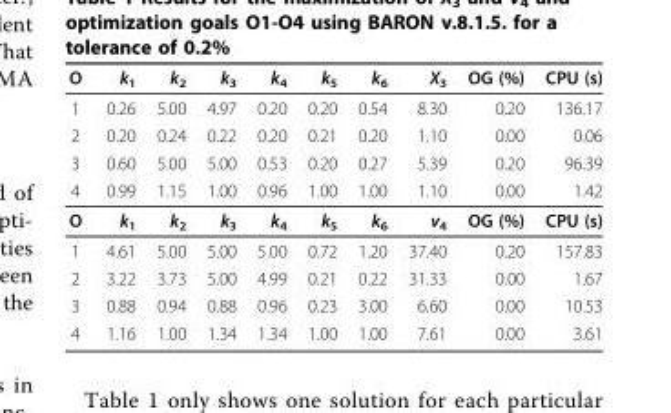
<table><thead><tr><td>O</td><td>k<sub>1</sub></td><td>k<sub>2</sub></td><td>k<sub>3</sub></td><td>k<sub>4</sub></td><td>k<sub>5</sub></td><td>k<sub>6</sub></td><td>X<sub>3</sub></td><td>OG (%)</td><td>CPU (s)</td></tr></thead><tbody><tr><td>1</td><td>0.26</td><td>5.00</td><td>4.97</td><td>0.20</td><td>0.20</td><td>0.54</td><td>8.30</td><td>0.20</td><td>136.17</td></tr><tr><td>2</td><td>0.20</td><td>0.24</td><td>0.22</td><td>0.20</td><td>0.21</td><td>0.20</td><td>1.10</td><td>0.00</td><td>0.06</td></tr><tr><td>3</td><td>0.60</td><td>5.00</td><td>5.00</td><td>0.53</td><td>0.20</td><td>0.27</td><td>5.39</td><td>0.20</td><td>96.39</td></tr><tr><td>4</td><td>0.99</td><td>1.15</td><td>1.00</td><td>0.96</td><td>1.00</td><td>1.00</td><td>1.10</td><td>0.00</td><td>1.42</td></tr><tr><td>O</td><td>k<sub>1</sub></td><td>k<sub>2</sub></td><td>k<sub>3</sub></td><td>k<sub>4</sub></td><td>k<sub>5</sub></td><td>k<sub>6</sub></td><td>v<sub>4</sub></td><td>OG (%)</td><td>CPU (s)</td></tr><tr><td>1</td><td>4.61</td><td>5.00</td><td>5.00</td><td>5.00</td><td>0.72</td><td>1.20</td><td>37.40</td><td>0.20</td><td>157.83</td></tr><tr><td>2</td><td>3.22</td><td>3.73</td><td>5.00</td><td>4.99</td><td>0.21</td><td>0.22</td><td>31.33</td><td>0.00</td><td>1.67</td></tr><tr><td>3</td><td>0.88</td><td>0.94</td><td>0.88</td><td>0.96</td><td>0.23</td><td>3.00</td><td>6.60</td><td>0.00</td><td>10.53</td></tr><tr><td>4</td><td>1.16</td><td>1.00</td><td>1.34</td><td>1.34</td><td>1.00</td><td>1.00</td><td>7.61</td><td>0.00</td><td>3.61</td></tr></tbody></table>